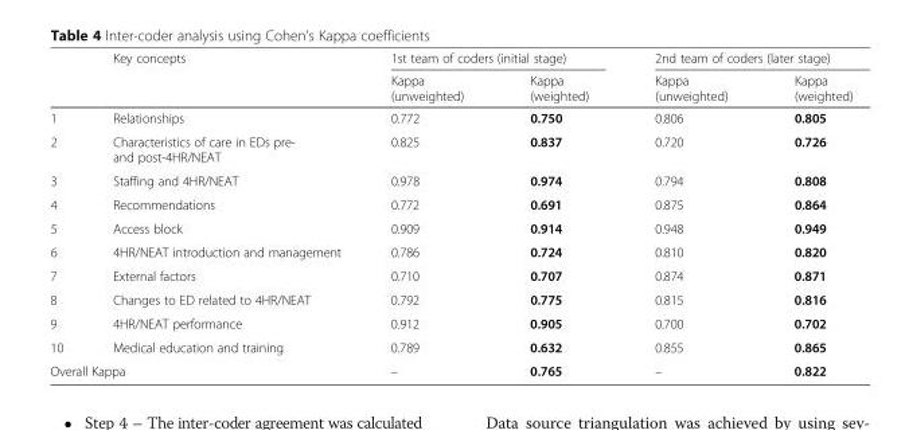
<table><thead><tr><td rowspan="2"></td><td rowspan="2">Key concepts</td><td colspan="2">1st team of coders (initial stage)</td><td colspan="2">2nd team of coders (later stage)</td></tr><tr><td>Kappa (unweighted)</td><td>Kappa (weighted)</td><td>Kappa (unweighted)</td><td>Kappa (weighted)</td></tr></thead><tbody><tr><td>1</td><td>Relationships</td><td>0.772</td><td>0.750</td><td>0.806</td><td>0.805</td></tr><tr><td>2</td><td>Characteristics of care in EDs pre- and post-4HR/NEAT</td><td>0.825</td><td>0.837</td><td>0.720</td><td>0.726</td></tr><tr><td>3</td><td>Staffing and 4HR/NEAT</td><td>0.978</td><td>0.974</td><td>0.794</td><td>0.808</td></tr><tr><td>4</td><td>Recommendations</td><td>0.772</td><td>0.691</td><td>0.875</td><td>0.864</td></tr><tr><td>5</td><td>Access block</td><td>0.909</td><td>0.914</td><td>0.948</td><td>0.949</td></tr><tr><td>6</td><td>4HR/NEAT introduction and management</td><td>0.786</td><td>0.724</td><td>0.810</td><td>0.820</td></tr><tr><td>7</td><td>External factors</td><td>0.710</td><td>0.707</td><td>0.874</td><td>0.871</td></tr><tr><td>8</td><td>Changes to ED related to 4HR/NEAT</td><td>0.792</td><td>0.775</td><td>0.815</td><td>0.816</td></tr><tr><td>9</td><td>4HR/NEAT performance</td><td>0.912</td><td>0.905</td><td>0.700</td><td>0.702</td></tr><tr><td>10</td><td>Medical education and training</td><td>0.789</td><td>0.632</td><td>0.855</td><td>0.865</td></tr><tr><td colspan="2">Overall Kappa</td><td>–</td><td>0.765</td><td>–</td><td>0.822</td></tr></tbody></table>